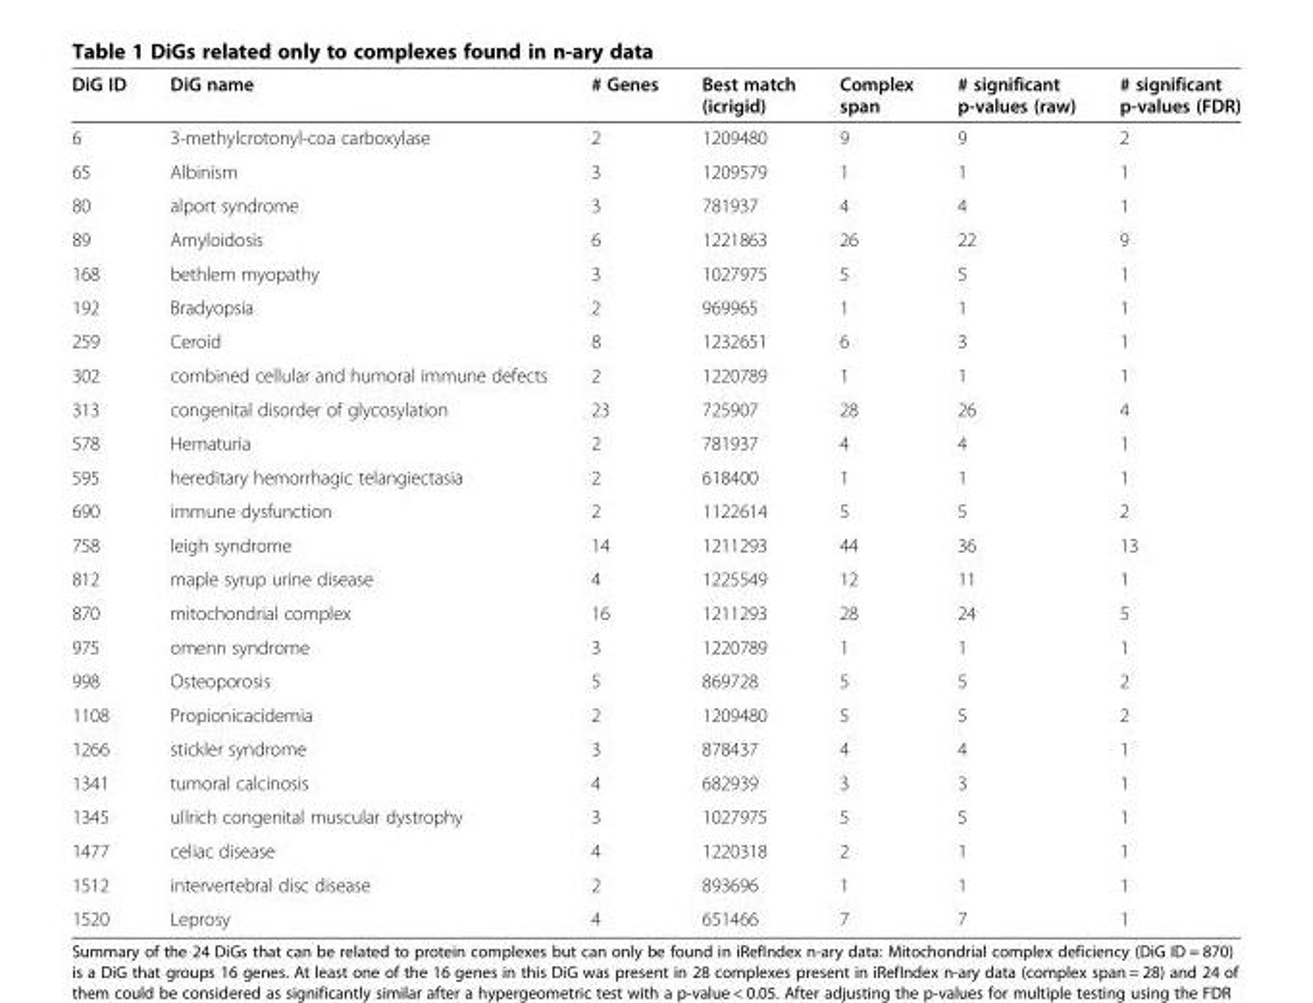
<table><thead><tr><td>DiG ID</td><td>DiG name</td><td># Genes</td><td>Best match (icrigid)</td><td>Complex span</td><td># significant p-values (raw)</td><td># significant p-values (FDR)</td></tr></thead><tbody><tr><td>6</td><td>3-methylcrotonyl-coa carboxylase</td><td>2</td><td>1209480</td><td>9</td><td>9</td><td>2</td></tr><tr><td>65</td><td>Albinism</td><td>3</td><td>1209579</td><td>1</td><td>1</td><td>1</td></tr><tr><td>80</td><td>alport syndrome</td><td>3</td><td>781937</td><td>4</td><td>4</td><td>1</td></tr><tr><td>89</td><td>Amyloidosis</td><td>6</td><td>1221863</td><td>26</td><td>22</td><td>9</td></tr><tr><td>168</td><td>bethlem myopathy</td><td>3</td><td>1027975</td><td>5</td><td>5</td><td>1</td></tr><tr><td>192</td><td>Bradyopsia</td><td>2</td><td>969965</td><td>1</td><td>1</td><td>1</td></tr><tr><td>259</td><td>Ceroid</td><td>8</td><td>1232651</td><td>6</td><td>3</td><td>1</td></tr><tr><td>302</td><td>combined cellular and humoral immune defects</td><td>2</td><td>1220789</td><td>1</td><td>1</td><td>1</td></tr><tr><td>313</td><td>congenital disorder of glycosylation</td><td>23</td><td>725907</td><td>28</td><td>26</td><td>4</td></tr><tr><td>578</td><td>Hematuria</td><td>2</td><td>781937</td><td>4</td><td>4</td><td>1</td></tr><tr><td>595</td><td>hereditary hemorrhagic telangiectasia</td><td>2</td><td>618400</td><td>1</td><td>1</td><td>1</td></tr><tr><td>690</td><td>immune dysfunction</td><td>2</td><td>1122614</td><td>5</td><td>5</td><td>2</td></tr><tr><td>758</td><td>leigh syndrome</td><td>14</td><td>1211293</td><td>44</td><td>36</td><td>13</td></tr><tr><td>812</td><td>maple syrup urine disease</td><td>4</td><td>1225549</td><td>12</td><td>11</td><td>1</td></tr><tr><td>870</td><td>mitochondrial complex</td><td>16</td><td>1211293</td><td>28</td><td>24</td><td>5</td></tr><tr><td>975</td><td>omenn syndrome</td><td>3</td><td>1220789</td><td>1</td><td>1</td><td>1</td></tr><tr><td>998</td><td>Osteoporosis</td><td>5</td><td>869728</td><td>5</td><td>5</td><td>2</td></tr><tr><td>1108</td><td>Propionicacidemia</td><td>2</td><td>1209480</td><td>5</td><td>5</td><td>2</td></tr><tr><td>1266</td><td>stickler syndrome</td><td>3</td><td>878437</td><td>4</td><td>4</td><td>1</td></tr><tr><td>1341</td><td>tumoral calcinosis</td><td>4</td><td>682939</td><td>3</td><td>3</td><td>1</td></tr><tr><td>1345</td><td>ullrich congenital muscular dystrophy</td><td>3</td><td>1027975</td><td>5</td><td>5</td><td>1</td></tr><tr><td>1477</td><td>celiac disease</td><td>4</td><td>1220318</td><td>2</td><td>1</td><td>1</td></tr><tr><td>1512</td><td>intervertebral disc disease</td><td>2</td><td>893696</td><td>1</td><td>1</td><td>1</td></tr><tr><td>1520</td><td>Leprosy</td><td>4</td><td>651466</td><td>7</td><td>7</td><td>1</td></tr></tbody></table>